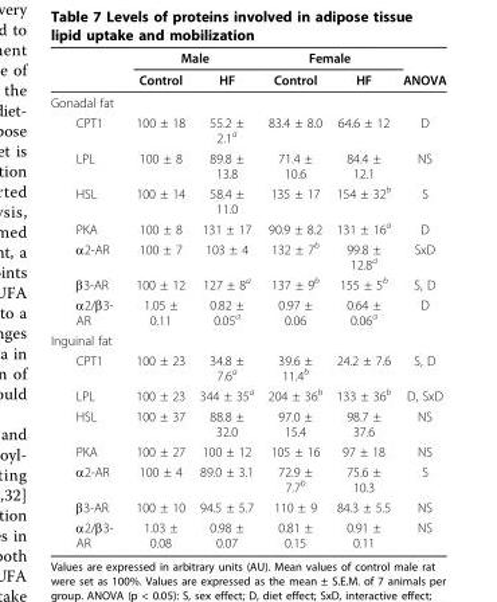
<table><thead><tr><td rowspan="2"></td><td colspan="2">Male</td><td colspan="2">Female</td><td rowspan="2">ANOVA</td></tr><tr><td>Control</td><td>HF</td><td>Control</td><td>HF</td></tr></thead><tbody><tr><td colspan="6">Gonadal fat</td></tr><tr><td>CPT1</td><td>100 ± 18</td><td>55.2 ± 2.1<sup>a</sup></td><td>83.4 ± 8.0</td><td>64.6 ± 12</td><td>D</td></tr><tr><td>LPL</td><td>100 ± 8</td><td>89.8 ± 13.8</td><td>71.4 ± 10.6</td><td>84.4 ± 12.1</td><td>NS</td></tr><tr><td>HSL</td><td>100 ± 14</td><td>58.4 ± 11.0</td><td>135 ± 17</td><td>154 ± 32<sup>b</sup></td><td>S</td></tr><tr><td>PKA</td><td>100 ± 8</td><td>131 ± 17</td><td>90.9 ± 8.2</td><td>131 ± 16<sup>a</sup></td><td>D</td></tr><tr><td>α2-AR</td><td>100 ± 7</td><td>103 ± 4</td><td>132 ± 7<sup>b</sup></td><td>99.8 ± 12.8<sup>a</sup></td><td>SxD</td></tr><tr><td>β3-AR</td><td>100 ± 12</td><td>127 ± 8<sup>a</sup></td><td>137 ± 9<sup>b</sup></td><td>155 ± 5<sup>b</sup></td><td>S, D</td></tr><tr><td>α2/β3- AR</td><td>1.05 ± 0.11</td><td>0.82 ± 0.05<sup>a</sup></td><td>0.97 ± 0.06</td><td>0.64 ± 0.06<sup>a</sup></td><td>D</td></tr><tr><td colspan="6">Inguinal fat</td></tr><tr><td>CPT1</td><td>100 ± 23</td><td>34.8 ± 7.6<sup>a</sup></td><td>39.6 ± 11.4<sup>b</sup></td><td>24.2 ± 7.6</td><td>S, D</td></tr><tr><td>LPL</td><td>100 ± 23</td><td>344 ± 35<sup>a</sup></td><td>204 ± 36<sup>b</sup></td><td>133 ± 36<sup>b</sup></td><td>D, SxD</td></tr><tr><td>HSL</td><td>100 ± 37</td><td>88.8 ± 32.0</td><td>97.0 ± 15.4</td><td>98.7 ± 37.6</td><td>NS</td></tr><tr><td>PKA</td><td>100 ± 27</td><td>100 ± 12</td><td>105 ± 16</td><td>97 ± 18</td><td>NS</td></tr><tr><td>α2-AR</td><td>100 ± 4</td><td>89.0 ± 3.1</td><td>72.9 ± 7.7<sup>b</sup></td><td>75.6 ± 10.3</td><td>S</td></tr><tr><td>β3-AR</td><td>100 ± 10</td><td>94.5 ± 5.7</td><td>110 ± 9</td><td>84.3 ± 5.5</td><td>NS</td></tr><tr><td>α2/β3- AR</td><td>1.03 ± 0.08</td><td>0.98 ± 0.07</td><td>0.81 ± 0.15</td><td>0.91 ± 0.11</td><td>NS</td></tr></tbody></table>